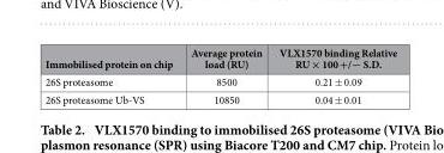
<table><thead><tr><td>Immobilised protein on chip</td><td>Average protein load (RU)</td><td>VLX1570 binding Relative RU × 100 +/− S.D.</td></tr></thead><tbody><tr><td>26S proteasome</td><td>8500</td><td>0.21 ± 0.09</td></tr><tr><td>26S proteasome Ub-VS</td><td>10850</td><td>0.04 ± 0.01</td></tr></tbody></table>